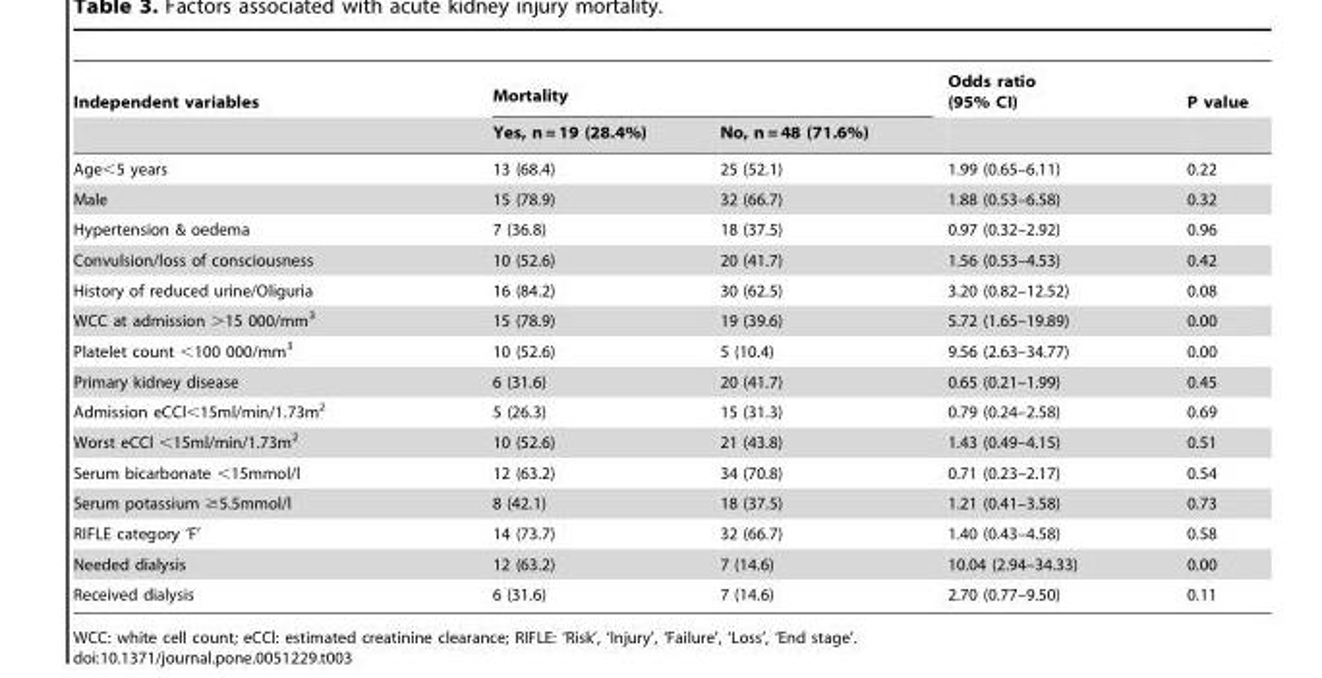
<table><thead><tr><td rowspan="2">Independent variables</td><td colspan="2">Mortality</td><td rowspan="2">Odds ratio (95% CI)</td><td rowspan="2">P value</td></tr><tr><td>Yes, n = 19 (28.4%)</td><td>No, n = 48 (71.6%)</td></tr></thead><tbody><tr><td>Age&lt;5 years</td><td>13 (68.4)</td><td>25 (52.1)</td><td>1.99 (0.65–6.11)</td><td>0.22</td></tr><tr><td>Male</td><td>15 (78.9)</td><td>32 (66.7)</td><td>1.88 (0.53–6.58)</td><td>0.32</td></tr><tr><td>Hypertension &amp; oedema</td><td>7 (36.8)</td><td>18 (37.5)</td><td>0.97 (0.32–2.92)</td><td>0.96</td></tr><tr><td>Convulsion/loss of consciousness</td><td>10 (52.6)</td><td>20 (41.7)</td><td>1.56 (0.53–4.53)</td><td>0.42</td></tr><tr><td>History of reduced urine/Oliguria</td><td>16 (84.2)</td><td>30 (62.5)</td><td>3.20 (0.82–12.52)</td><td>0.08</td></tr><tr><td>WCC at admission &gt;15 000/mm<sup>3</sup></td><td>15 (78.9)</td><td>19 (39.6)</td><td>5.72 (1.65–19.89)</td><td>0.00</td></tr><tr><td>Platelet count &lt;100 000/mm<sup>3</sup></td><td>10 (52.6)</td><td>5 (10.4)</td><td>9.56 (2.63–34.77)</td><td>0.00</td></tr><tr><td>Primary kidney disease</td><td>6 (31.6)</td><td>20 (41.7)</td><td>0.65 (0.21–1.99)</td><td>0.45</td></tr><tr><td>Admission eCCl&lt;15ml/min/1.73m<sup>2</sup></td><td>5 (26.3)</td><td>15 (31.3)</td><td>0.79 (0.24–2.58)</td><td>0.69</td></tr><tr><td>Worst eCCl &lt;15ml/min/1.73m<sup>2</sup></td><td>10 (52.6)</td><td>21 (43.8)</td><td>1.43 (0.49–4.15)</td><td>0.51</td></tr><tr><td>Serum bicarbonate &lt;15mmol/l</td><td>12 (63.2)</td><td>34 (70.8)</td><td>0.71 (0.23–2.17)</td><td>0.54</td></tr><tr><td>Serum potassium ≥5.5mmol/l</td><td>8 (42.1)</td><td>18 (37.5)</td><td>1.21 (0.41–3.58)</td><td>0.73</td></tr><tr><td>RIFLE category ‘F’</td><td>14 (73.7)</td><td>32 (66.7)</td><td>1.40 (0.43–4.58)</td><td>0.58</td></tr><tr><td>Needed dialysis</td><td>12 (63.2)</td><td>7 (14.6)</td><td>10.04 (2.94–34.33)</td><td>0.00</td></tr><tr><td>Received dialysis</td><td>6 (31.6)</td><td>7 (14.6)</td><td>2.70 (0.77–9.50)</td><td>0.11</td></tr></tbody></table>